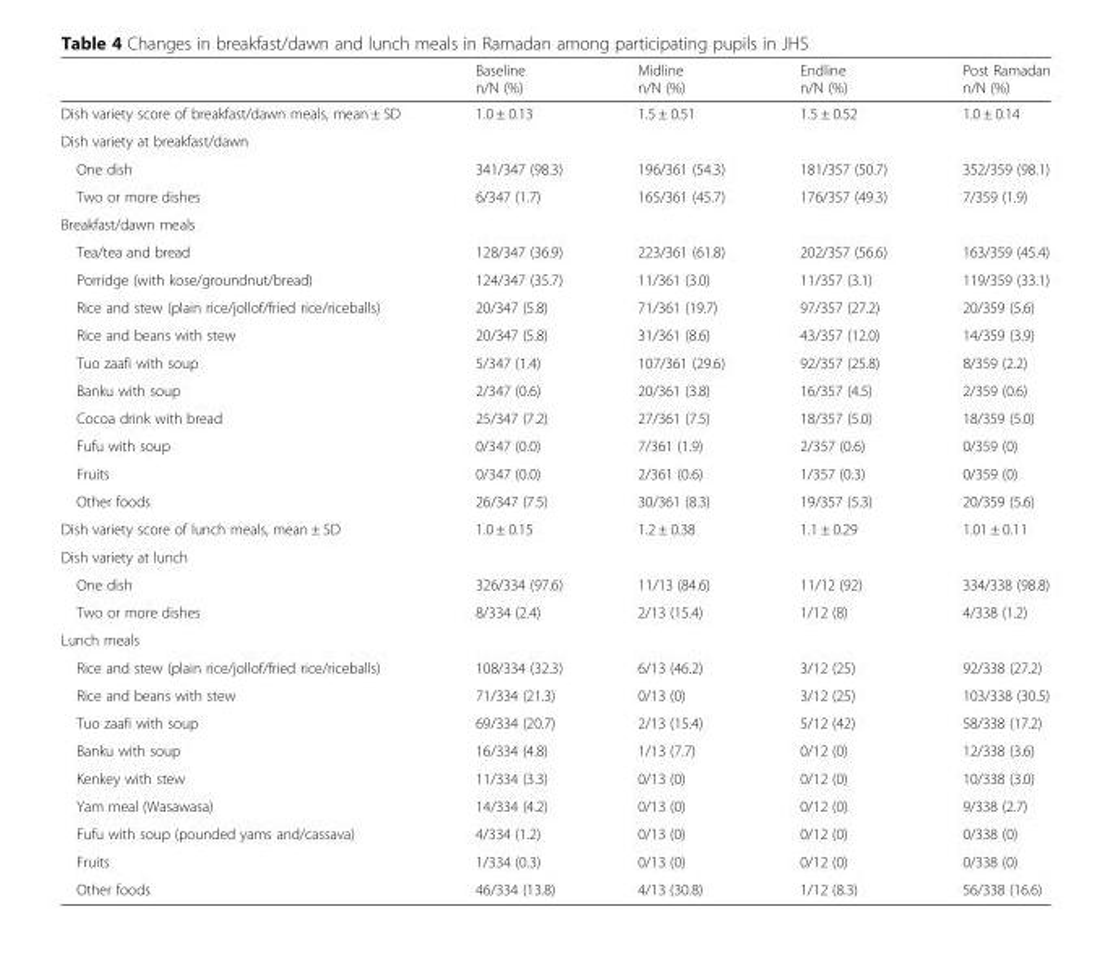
<table><thead><tr><td></td><td>Baseline n/N (%)</td><td>Midline n/N (%)</td><td>Endline n/N (%)</td><td>Post Ramadan n/N (%)</td></tr></thead><tbody><tr><td>Dish variety score of breakfast/dawn meals, mean ± SD</td><td>1.0 ± 0.13</td><td>1.5 ± 0.51</td><td>1.5 ± 0.52</td><td>1.0 ± 0.14</td></tr><tr><td colspan="5">Dish variety at breakfast/dawn</td></tr><tr><td>One dish</td><td>341/347 (98.3)</td><td>196/361 (54.3)</td><td>181/357 (50.7)</td><td>352/359 (98.1)</td></tr><tr><td>Two or more dishes</td><td>6/347 (1.7)</td><td>165/361 (45.7)</td><td>176/357 (49.3)</td><td>7/359 (1.9)</td></tr><tr><td colspan="5">Breakfast/dawn meals</td></tr><tr><td>Tea/tea and bread</td><td>128/347 (36.9)</td><td>223/361 (61.8)</td><td>202/357 (56.6)</td><td>163/359 (45.4)</td></tr><tr><td>Porridge (with kose/groundnut/bread)</td><td>124/347 (35.7)</td><td>11/361 (3.0)</td><td>11/357 (3.1)</td><td>119/359 (33.1)</td></tr><tr><td>Rice and stew (plain rice/jollof/fried rice/riceballs)</td><td>20/347 (5.8)</td><td>71/361 (19.7)</td><td>97/357 (27.2)</td><td>20/359 (5.6)</td></tr><tr><td>Rice and beans with stew</td><td>20/347 (5.8)</td><td>31/361 (8.6)</td><td>43/357 (12.0)</td><td>14/359 (3.9)</td></tr><tr><td>Tuo zaafi with soup</td><td>5/347 (1.4)</td><td>107/361 (29.6)</td><td>92/357 (25.8)</td><td>8/359 (2.2)</td></tr><tr><td>Banku with soup</td><td>2/347 (0.6)</td><td>20/361 (3.8)</td><td>16/357 (4.5)</td><td>2/359 (0.6)</td></tr><tr><td>Cocoa drink with bread</td><td>25/347 (7.2)</td><td>27/361 (7.5)</td><td>18/357 (5.0)</td><td>18/359 (5.0)</td></tr><tr><td>Fufu with soup</td><td>0/347 (0.0)</td><td>7/361 (1.9)</td><td>2/357 (0.6)</td><td>0/359 (0)</td></tr><tr><td>Fruits</td><td>0/347 (0.0)</td><td>2/361 (0.6)</td><td>1/357 (0.3)</td><td>0/359 (0)</td></tr><tr><td>Other foods</td><td>26/347 (7.5)</td><td>30/361 (8.3)</td><td>19/357 (5.3)</td><td>20/359 (5.6)</td></tr><tr><td>Dish variety score of lunch meals, mean ± SD</td><td>1.0 ± 0.15</td><td>1.2 ± 0.38</td><td>1.1 ± 0.29</td><td>1.01 ± 0.11</td></tr><tr><td colspan="5">Dish variety at lunch</td></tr><tr><td>One dish</td><td>326/334 (97.6)</td><td>11/13 (84.6)</td><td>11/12 (92)</td><td>334/338 (98.8)</td></tr><tr><td>Two or more dishes</td><td>8/334 (2.4)</td><td>2/13 (15.4)</td><td>1/12 (8)</td><td>4/338 (1.2)</td></tr><tr><td colspan="5">Lunch meals</td></tr><tr><td>Rice and stew (plain rice/jollof/fried rice/riceballs)</td><td>108/334 (32.3)</td><td>6/13 (46.2)</td><td>3/12 (25)</td><td>92/338 (27.2)</td></tr><tr><td>Rice and beans with stew</td><td>71/334 (21.3)</td><td>0/13 (0)</td><td>3/12 (25)</td><td>103/338 (30.5)</td></tr><tr><td>Tuo zaafi with soup</td><td>69/334 (20.7)</td><td>2/13 (15.4)</td><td>5/12 (42)</td><td>58/338 (17.2)</td></tr><tr><td>Banku with soup</td><td>16/334 (4.8)</td><td>1/13 (7.7)</td><td>0/12 (0)</td><td>12/338 (3.6)</td></tr><tr><td>Kenkey with stew</td><td>11/334 (3.3)</td><td>0/13 (0)</td><td>0/12 (0)</td><td>10/338 (3.0)</td></tr><tr><td>Yam meal (Wasawasa)</td><td>14/334 (4.2)</td><td>0/13 (0)</td><td>0/12 (0)</td><td>9/338 (2.7)</td></tr><tr><td>Fufu with soup (pounded yams and/cassava)</td><td>4/334 (1.2)</td><td>0/13 (0)</td><td>0/12 (0)</td><td>0/338 (0)</td></tr><tr><td>Fruits</td><td>1/334 (0.3)</td><td>0/13 (0)</td><td>0/12 (0)</td><td>0/338 (0)</td></tr><tr><td>Other foods</td><td>46/334 (13.8)</td><td>4/13 (30.8)</td><td>1/12 (8.3)</td><td>56/338 (16.6)</td></tr></tbody></table>